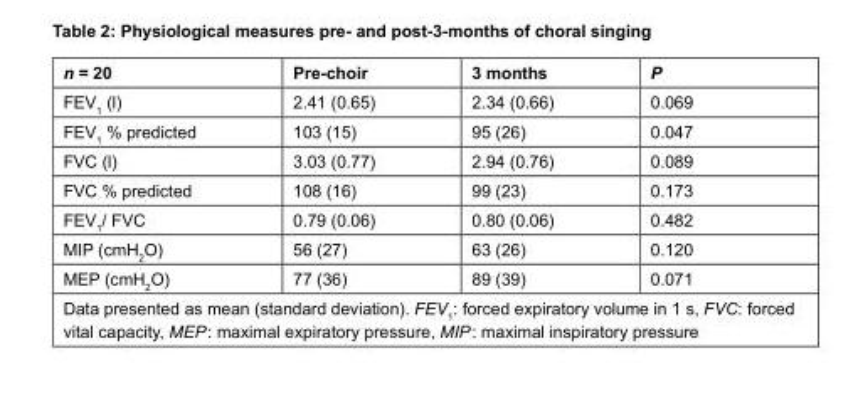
<table><thead><tr><td>n = 20</td><td>Pre-choir</td><td>3 months</td><td>P</td></tr></thead><tbody><tr><td>FEV1 (l)</td><td>2.41 (0.65)</td><td>2.34 (0.66)</td><td>0.069</td></tr><tr><td>FEV1 % predicted</td><td>103 (15)</td><td>95 (26)</td><td>0.047</td></tr><tr><td>FVC (l)</td><td>3.03 (0.77)</td><td>2.94 (0.76)</td><td>0.089</td></tr><tr><td>FVC % predicted</td><td>108 (16)</td><td>99 (23)</td><td>0.173</td></tr><tr><td>FEV1/ FVC</td><td>0.79 (0.06)</td><td>0.80 (0.06)</td><td>0.482</td></tr><tr><td>MIP (cmH2O)</td><td>56 (27)</td><td>63 (26)</td><td>0.120</td></tr><tr><td>MEP (cmH2O)</td><td>77 (36)</td><td>89 (39)</td><td>0.071</td></tr><tr><td colspan="4">Data presented as mean (standard deviation). FEV<sub>1</sub>: forced expiratory volume in 1 s, FVC: forced vital capacity, MEP : maximal expiratory pressure, MIP : maximal inspiratory pressure</td></tr></tbody></table>